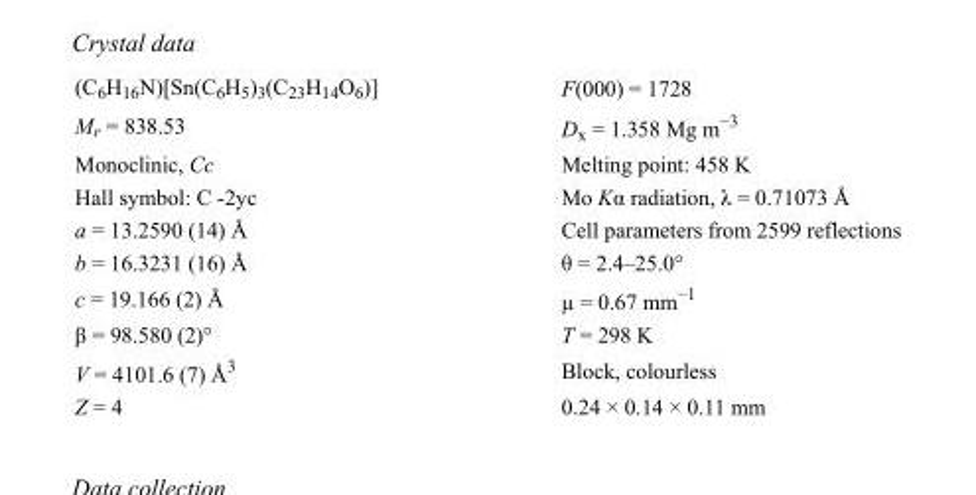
<table><tbody><tr><td>(C<sub>6</sub>H<sub>16</sub>N)[Sn(C<sub>6</sub>H<sub>5</sub>)<sub>3</sub>(C<sub>23</sub>H<sub>14</sub>O<sub>6</sub>)]</td><td>F(000) = 1728</td></tr><tr><td>M<sub>r</sub> = 838.53</td><td>D<sub>x</sub> = 1.358 Mg m<sup>−3</sup></td></tr><tr><td>Monoclinic, Cc</td><td>Melting point: 458 K</td></tr><tr><td>Hall symbol: C -2yc</td><td>Mo Kα radiation, λ = 0.71073 Å</td></tr><tr><td>a = 13.2590 (14) Å</td><td>Cell parameters from 2599 reflections</td></tr><tr><td>b = 16.3231 (16) Å</td><td>θ = 2.4–25.0°</td></tr><tr><td>c = 19.166 (2) Å</td><td>µ = 0.67 mm<sup>−1</sup></td></tr><tr><td>β = 98.580 (2)°</td><td>T = 298 K</td></tr><tr><td>V = 4101.6 (7) Å<sup>3</sup></td><td>Block, colourless</td></tr><tr><td>Z = 4</td><td>0.24 × 0.14 × 0.11 mm</td></tr></tbody></table>